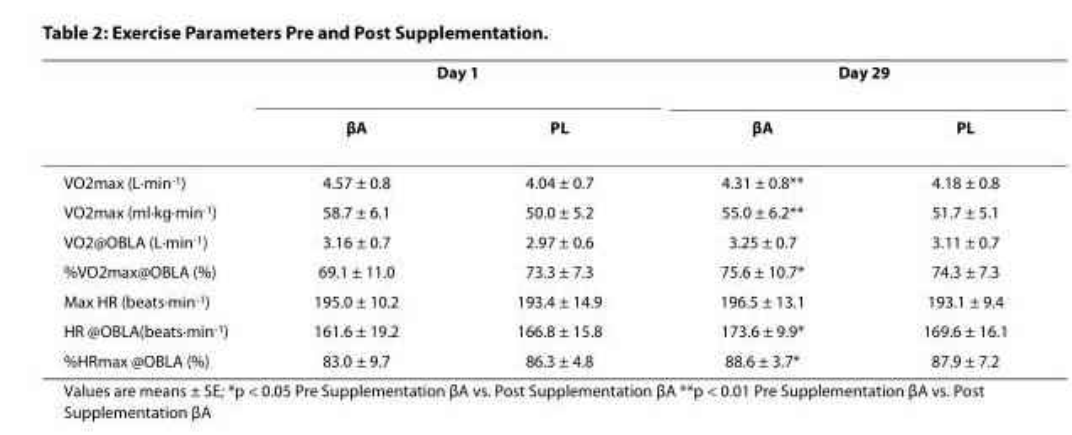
<table><thead><tr><td rowspan="2"></td><td colspan="2">Day 1</td><td colspan="2">Day 29</td></tr><tr><td>βA</td><td>PL</td><td>βA</td><td>PL</td></tr></thead><tbody><tr><td>VO2max (L·min<sup>-1</sup>)</td><td>4.57 ± 0.8</td><td>4.04 ± 0.7</td><td>4.31 ± 0.8**</td><td>4.18 ± 0.8</td></tr><tr><td>VO2max (ml·kg·min<sup>-1</sup>)</td><td>58.7 ± 6.1</td><td>50.0 ± 5.2</td><td>55.0 ± 6.2**</td><td>51.7 ± 5.1</td></tr><tr><td>VO2@OBLA (L·min<sup>-1</sup>)</td><td>3.16 ± 0.7</td><td>2.97 ± 0.6</td><td>3.25 ± 0.7</td><td>3.11 ± 0.7</td></tr><tr><td>%VO2max@OBLA (%)</td><td>69.1 ± 11.0</td><td>73.3 ± 7.3</td><td>75.6 ± 10.7*</td><td>74.3 ± 7.3</td></tr><tr><td>Max HR (beats·min<sup>-1</sup>)</td><td>195.0 ± 10.2</td><td>193.4 ± 14.9</td><td>196.5 ± 13.1</td><td>193.1 ± 9.4</td></tr><tr><td>HR @OBLA(beats·min<sup>-1</sup>)</td><td>161.6 ± 19.2</td><td>166.8 ± 15.8</td><td>173.6 ± 9.9*</td><td>169.6 ± 16.1</td></tr><tr><td>%HRmax @OBLA (%)</td><td>83.0 ± 9.7</td><td>86.3 ± 4.8</td><td>88.6 ± 3.7*</td><td>87.9 ± 7.2</td></tr></tbody></table>